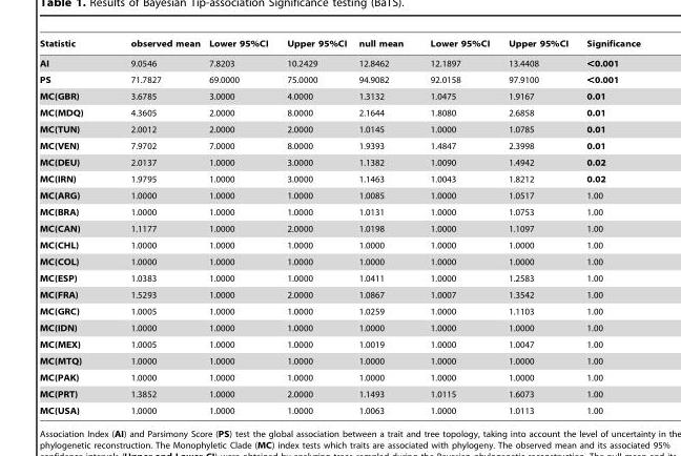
<table><thead><tr><td>Statistic</td><td>observed mean</td><td>Lower 95%CI</td><td>Upper 95%CI</td><td>null mean</td><td>Lower 95%CI</td><td>Upper 95%CI</td><td>Significance</td></tr></thead><tbody><tr><td>AI</td><td>9.0546</td><td>7.8203</td><td>10.2429</td><td>12.8462</td><td>12.1897</td><td>13.4408</td><td>&lt;0.001</td></tr><tr><td>PS</td><td>71.7827</td><td>69.0000</td><td>75.0000</td><td>94.9082</td><td>92.0158</td><td>97.9100</td><td>&lt;0.001</td></tr><tr><td>MC(GBR)</td><td>3.6785</td><td>3.0000</td><td>4.0000</td><td>1.3132</td><td>1.0475</td><td>1.9167</td><td>0.01</td></tr><tr><td>MC(MDQ)</td><td>4.3605</td><td>2.0000</td><td>8.0000</td><td>2.1644</td><td>1.8080</td><td>2.6858</td><td>0.01</td></tr><tr><td>MC(TUN)</td><td>2.0012</td><td>2.0000</td><td>2.0000</td><td>1.0145</td><td>1.0000</td><td>1.0785</td><td>0.01</td></tr><tr><td>MC(VEN)</td><td>7.9702</td><td>7.0000</td><td>8.0000</td><td>1.9393</td><td>1.4847</td><td>2.3998</td><td>0.01</td></tr><tr><td>MC(DEU)</td><td>2.0137</td><td>1.0000</td><td>3.0000</td><td>1.1382</td><td>1.0090</td><td>1.4942</td><td>0.02</td></tr><tr><td>MC(IRN)</td><td>1.9795</td><td>1.0000</td><td>3.0000</td><td>1.1463</td><td>1.0043</td><td>1.8212</td><td>0.02</td></tr><tr><td>MC(ARG)</td><td>1.0000</td><td>1.0000</td><td>1.0000</td><td>1.0085</td><td>1.0000</td><td>1.0517</td><td>1.00</td></tr><tr><td>MC(BRA)</td><td>1.0000</td><td>1.0000</td><td>1.0000</td><td>1.0131</td><td>1.0000</td><td>1.0753</td><td>1.00</td></tr><tr><td>MC(CAN)</td><td>1.1177</td><td>1.0000</td><td>2.0000</td><td>1.0198</td><td>1.0000</td><td>1.1097</td><td>1.00</td></tr><tr><td>MC(CHL)</td><td>1.0000</td><td>1.0000</td><td>1.0000</td><td>1.0000</td><td>1.0000</td><td>1.0000</td><td>1.00</td></tr><tr><td>MC(COL)</td><td>1.0000</td><td>1.0000</td><td>1.0000</td><td>1.0000</td><td>1.0000</td><td>1.0000</td><td>1.00</td></tr><tr><td>MC(ESP)</td><td>1.0383</td><td>1.0000</td><td>1.0000</td><td>1.0411</td><td>1.0000</td><td>1.2583</td><td>1.00</td></tr><tr><td>MC(FRA)</td><td>1.5293</td><td>1.0000</td><td>2.0000</td><td>1.0867</td><td>1.0007</td><td>1.3542</td><td>1.00</td></tr><tr><td>MC(GRC)</td><td>1.0005</td><td>1.0000</td><td>1.0000</td><td>1.0259</td><td>1.0000</td><td>1.1103</td><td>1.00</td></tr><tr><td>MC(IDN)</td><td>1.0000</td><td>1.0000</td><td>1.0000</td><td>1.0000</td><td>1.0000</td><td>1.0000</td><td>1.00</td></tr><tr><td>MC(MEX)</td><td>1.0005</td><td>1.0000</td><td>1.0000</td><td>1.0019</td><td>1.0000</td><td>1.0047</td><td>1.00</td></tr><tr><td>MC(MTQ)</td><td>1.0000</td><td>1.0000</td><td>1.0000</td><td>1.0000</td><td>1.0000</td><td>1.0000</td><td>1.00</td></tr><tr><td>MC(PAK)</td><td>1.0000</td><td>1.0000</td><td>1.0000</td><td>1.0000</td><td>1.0000</td><td>1.0000</td><td>1.00</td></tr><tr><td>MC(PRT)</td><td>1.3852</td><td>1.0000</td><td>2.0000</td><td>1.1493</td><td>1.0115</td><td>1.6073</td><td>1.00</td></tr><tr><td>MC(USA)</td><td>1.0000</td><td>1.0000</td><td>1.0000</td><td>1.0063</td><td>1.0000</td><td>1.0113</td><td>1.00</td></tr></tbody></table>